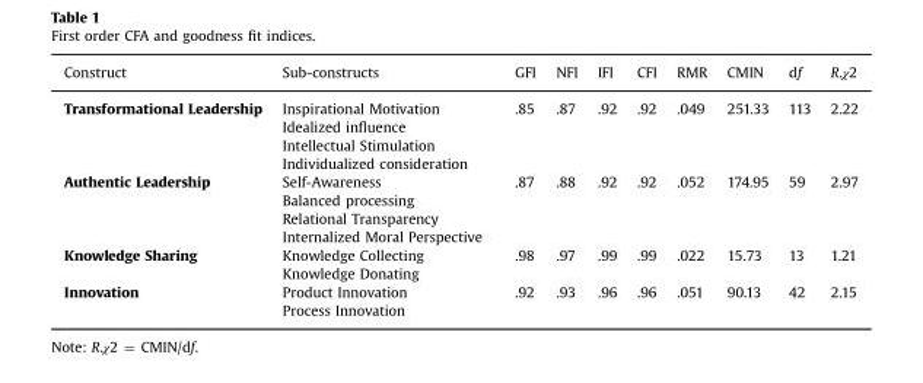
<table><thead><tr><td>Construct</td><td>Sub-constructs</td><td>GFI</td><td>NFI</td><td>IFI</td><td>CFI</td><td>RMR</td><td>CMIN</td><td>df</td><td>R.χ2</td></tr></thead><tbody><tr><td rowspan="4">Transformational Leadership</td><td>Inspirational Motivation</td><td rowspan="4">.85</td><td rowspan="4">.87</td><td rowspan="4">.92</td><td rowspan="4">.92</td><td rowspan="4">.049</td><td rowspan="4">251.33</td><td rowspan="4">113</td><td rowspan="4">2.22</td></tr><tr><td>Idealized influence</td></tr><tr><td>Intellectual Stimulation</td></tr><tr><td>Individualized consideration</td></tr><tr><td rowspan="4">Authentic Leadership</td><td>Self-Awareness</td><td rowspan="4">.87</td><td rowspan="4">.88</td><td rowspan="4">.92</td><td rowspan="4">.92</td><td rowspan="4">.052</td><td rowspan="4">174.95</td><td rowspan="4">59</td><td rowspan="4">2.97</td></tr><tr><td>Balanced processing</td></tr><tr><td>Relational Transparency</td></tr><tr><td>Internalized Moral Perspective</td></tr><tr><td rowspan="2">Knowledge Sharing</td><td>Knowledge Collecting</td><td rowspan="2">.98</td><td rowspan="2">.97</td><td rowspan="2">.99</td><td rowspan="2">.99</td><td rowspan="2">.022</td><td rowspan="2">15.73</td><td rowspan="2">13</td><td rowspan="2">1.21</td></tr><tr><td>Knowledge Donating</td></tr><tr><td rowspan="2">Innovation</td><td>Product Innovation</td><td rowspan="2">.92</td><td rowspan="2">.93</td><td rowspan="2">.96</td><td rowspan="2">.96</td><td rowspan="2">.051</td><td rowspan="2">90.13</td><td rowspan="2">42</td><td rowspan="2">2.15</td></tr><tr><td>Process Innovation</td></tr></tbody></table>